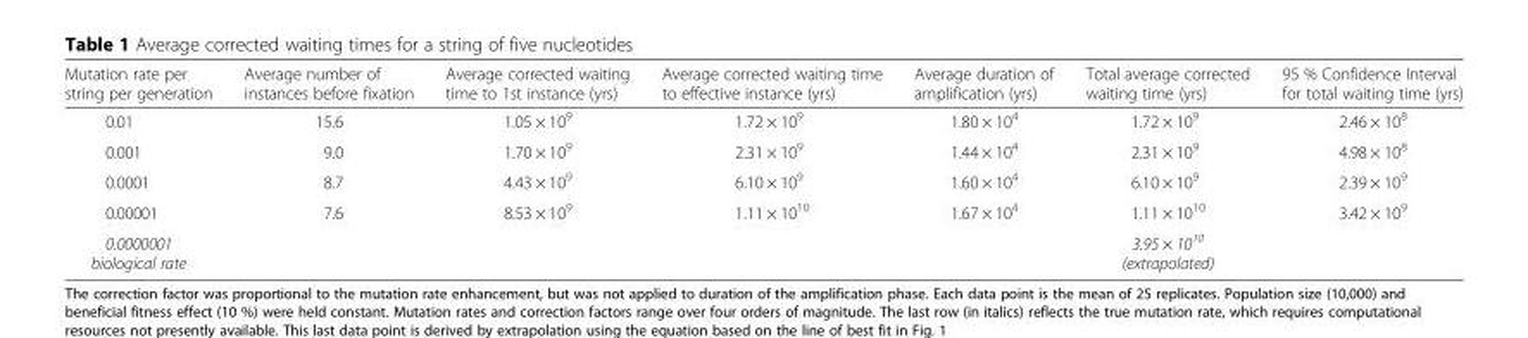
<table><thead><tr><td>Mutation rate per string per generation</td><td>Average number of instances before fixation</td><td>Average corrected waiting time to 1st instance (yrs)</td><td>Average corrected waiting time to effective instance (yrs)</td><td>Average duration of amplification (yrs)</td><td>Total average corrected waiting time (yrs)</td><td>95 % Confidence Interval for total waiting time (yrs)</td></tr></thead><tbody><tr><td>0.01</td><td>15.6</td><td>1.05 × 10<sup>9</sup></td><td>1.72 × 10<sup>9</sup></td><td>1.80 × 10<sup>4</sup></td><td>1.72 × 10<sup>9</sup></td><td>2.46 × 10<sup>8</sup></td></tr><tr><td>0.001</td><td>9.0</td><td>1.70 × 10<sup>9</sup></td><td>2.31 × 10<sup>9</sup></td><td>1.44 × 10<sup>4</sup></td><td>2.31 × 10<sup>9</sup></td><td>4.98 × 10<sup>8</sup></td></tr><tr><td>0.0001</td><td>8.7</td><td>4.43 × 10<sup>9</sup></td><td>6.10 × 10<sup>9</sup></td><td>1.60 × 10<sup>4</sup></td><td>6.10 × 10<sup>9</sup></td><td>2.39 × 10<sup>9</sup></td></tr><tr><td>0.00001</td><td>7.6</td><td>8.53 × 10<sup>9</sup></td><td>1.11 × 10<sup>10</sup></td><td>1.67 × 10<sup>4</sup></td><td>1.11 × 10<sup>10</sup></td><td>3.42 × 10<sup>9</sup></td></tr><tr><td>0.0000001 biological rate</td><td></td><td></td><td></td><td></td><td>3.95 × 10<sup>10</sup> (extrapolated)</td><td></td></tr></tbody></table>